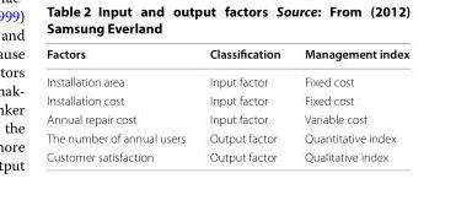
<table><thead><tr><td>Factors</td><td>Classification</td><td>Management index</td></tr></thead><tbody><tr><td>Installation area</td><td>Input factor</td><td>Fixed cost</td></tr><tr><td>Installation cost</td><td>Input factor</td><td>Fixed cost</td></tr><tr><td>Annual repair cost</td><td>Input factor</td><td>Variable cost</td></tr><tr><td>The number of annual users</td><td>Output factor</td><td>Quantitative index</td></tr><tr><td>Customer satisfaction</td><td>Output factor</td><td>Qualitative index</td></tr></tbody></table>